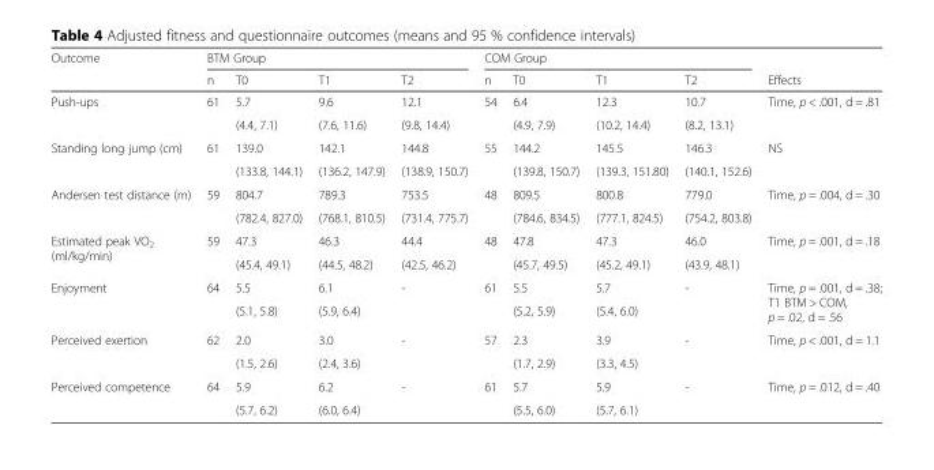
<table><thead><tr><td rowspan="2">Outcome</td><td colspan="4">BTM Group</td><td colspan="4">COM Group</td><td rowspan="2">Effects</td></tr><tr><td>n</td><td>T0</td><td>T1</td><td>T2</td><td>n</td><td>T0</td><td>T1</td><td>T2</td></tr></thead><tbody><tr><td rowspan="2">Push-ups</td><td>61</td><td>5.7</td><td>9.6</td><td>12.1</td><td>54</td><td>6.4</td><td>12.3</td><td>10.7</td><td>Time, p &lt; .001, d = .81</td></tr><tr><td></td><td>(4.4, 7.1)</td><td>(7.6, 11.6)</td><td>(9.8, 14.4)</td><td></td><td>(4.9, 7.9)</td><td>(10.2, 14.4)</td><td>(8.2, 13.1)</td><td></td></tr><tr><td rowspan="2">Standing long jump (cm)</td><td rowspan="2">61</td><td>139.0</td><td>142.1</td><td>144.8</td><td>55</td><td>144.2</td><td>145.5</td><td>146.3</td><td>NS</td></tr><tr><td>(133.8, 144.1)</td><td>(136.2, 147.9)</td><td>(138.9, 150.7)</td><td></td><td>(139.8, 150.7)</td><td>(139.3, 151.80)</td><td>(140.1, 152.6)</td><td></td></tr><tr><td rowspan="2">Andersen test distance (m)</td><td>59</td><td>804.7</td><td>789.3</td><td>753.5</td><td>48</td><td>809.5</td><td>800.8</td><td>779.0</td><td>Time, p = .004, d = .30</td></tr><tr><td></td><td>(782.4, 827.0)</td><td>(768.1, 810.5)</td><td>(731.4, 775.7)</td><td></td><td>(784.6, 834.5)</td><td>(777.1, 824.5)</td><td>(754.2, 803.8)</td><td></td></tr><tr><td rowspan="2">Estimated peak VO<sub>2</sub> (ml/kg/min)</td><td>59</td><td>47.3</td><td>46.3</td><td>44.4</td><td>48</td><td>47.8</td><td>47.3</td><td>46.0</td><td>Time, p = .001, d = .18</td></tr><tr><td></td><td>(45.4, 49.1)</td><td>(44.5, 48.2)</td><td>(42.5, 46.2)</td><td></td><td>(45.7, 49.5)</td><td>(45.2, 49.1)</td><td>(43.9, 48.1)</td><td></td></tr><tr><td rowspan="2">Enjoyment</td><td rowspan="2">64</td><td>5.5</td><td>6.1</td><td>-</td><td>61</td><td>5.5</td><td>5.7</td><td>-</td><td rowspan="2">Time, p = .001, d = .38; T1 BTM &gt; COM, p = .02, d = .56</td></tr><tr><td>(5.1, 5.8)</td><td>(5.9, 6.4)</td><td></td><td></td><td>(5.2, 5.9)</td><td>(5.4, 6.0)</td><td></td></tr><tr><td rowspan="2">Perceived exertion</td><td>62</td><td>2.0</td><td>3.0</td><td>-</td><td>57</td><td>2.3</td><td>3.9</td><td>-</td><td>Time, p &lt; .001, d = 1.1</td></tr><tr><td></td><td>(1.5, 2.6)</td><td>(2.4, 3.6)</td><td></td><td></td><td>(1.7, 2.9)</td><td>(3.3, 4.5)</td><td></td><td></td></tr><tr><td rowspan="2">Perceived competence</td><td>64</td><td>5.9</td><td>6.2</td><td>-</td><td>61</td><td>5.7</td><td>5.9</td><td>-</td><td>Time, p = .012, d = .40</td></tr><tr><td></td><td>(5.7, 6.2)</td><td>(6.0, 6.4)</td><td></td><td></td><td>(5.5, 6.0)</td><td>(5.7, 6.1)</td><td></td><td></td></tr></tbody></table>